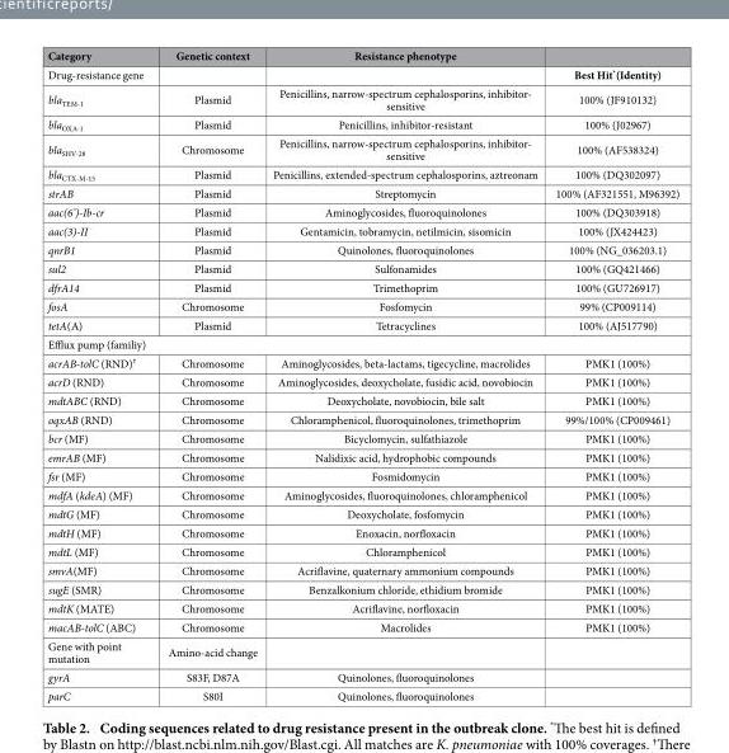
<table><thead><tr><td>Category</td><td>Genetic context</td><td>Resistance phenotype</td><td></td></tr></thead><tbody><tr><td>Drug-resistance gene</td><td></td><td></td><td>Best Hit*(Identity)</td></tr><tr><td>bla<sub>TEM-1</sub></td><td>Plasmid</td><td>Penicillins, narrow-spectrum cephalosporins, inhibitor- sensitive</td><td>100% (JF910132)</td></tr><tr><td>bla<sub>OXA-1</sub></td><td>Plasmid</td><td>Penicillins, inhibitor-resistant</td><td>100% (J02967)</td></tr><tr><td>bla<sub>SHV-28</sub></td><td>Chromosome</td><td>Penicillins, narrow-spectrum cephalosporins, inhibitor- sensitive</td><td>100% (AF538324)</td></tr><tr><td>bla<sub>CTX-M-15</sub></td><td>Plasmid</td><td>Penicillins, extended-spectrum cephalosporins, aztreonam</td><td>100% (DQ302097)</td></tr><tr><td>strAB</td><td>Plasmid</td><td>Streptomycin</td><td>100% (AF321551, M96392)</td></tr><tr><td>aac(6’)-Ib-cr</td><td>Plasmid</td><td>Aminoglycosides, fluoroquinolones</td><td>100% (DQ303918)</td></tr><tr><td>aac(3)-II</td><td>Plasmid</td><td>Gentamicin, tobramycin, netilmicin, sisomicin</td><td>100% (JX424423)</td></tr><tr><td>qnrB1</td><td>Plasmid</td><td>Quinolones, fluoroquinolones</td><td>100% (NG_036203.1)</td></tr><tr><td>sul2</td><td>Plasmid</td><td>Sulfonamides</td><td>100% (GQ421466)</td></tr><tr><td>dfrA14</td><td>Plasmid</td><td>Trimethoprim</td><td>100% (GU726917)</td></tr><tr><td>fosA</td><td>Chromosome</td><td>Fosfomycin</td><td>99% (CP009114)</td></tr><tr><td>tetA(A)</td><td>Plasmid</td><td>Tetracyclines</td><td>100% (AJ517790)</td></tr><tr><td colspan="4">Efflux pump (familiy)</td></tr><tr><td>acrAB-tolC (RND)†</td><td>Chromosome</td><td>Aminoglycosides, beta-lactams, tigecycline, macrolides</td><td>PMK1 (100%)</td></tr><tr><td>acrD (RND)</td><td>Chromosome</td><td>Aminoglycosides, deoxycholate, fusidic acid, novobiocin</td><td>PMK1 (100%)</td></tr><tr><td>mdtABC (RND)</td><td>Chromosome</td><td>Deoxycholate, novobiocin, bile salt</td><td>PMK1 (100%)</td></tr><tr><td>oqxAB (RND)</td><td>Chromosome</td><td>Chloramphenicol, fluoroquinolones, trimethoprim</td><td>99%/100% (CP009461)</td></tr><tr><td>bcr (MF)</td><td>Chromosome</td><td>Bicyclomycin, sulfathiazole</td><td>PMK1 (100%)</td></tr><tr><td>emrAB (MF)</td><td>Chromosome</td><td>Nalidixic acid, hydrophobic compounds</td><td>PMK1 (100%)</td></tr><tr><td>fsr (MF)</td><td>Chromosome</td><td>Fosmidomycin</td><td>PMK1 (100%)</td></tr><tr><td>mdfA (kdeA) (MF)</td><td>Chromosome</td><td>Aminoglycosides, fluoroquinolones, chloramphenicol</td><td>PMK1 (100%)</td></tr><tr><td>mdtG (MF)</td><td>Chromosome</td><td>Deoxycholate, fosfomycin</td><td>PMK1 (100%)</td></tr><tr><td>mdtH (MF)</td><td>Chromosome</td><td>Enoxacin, norfloxacin</td><td>PMK1 (100%)</td></tr><tr><td>mdtL (MF)</td><td>Chromosome</td><td>Chloramphenicol</td><td>PMK1 (100%)</td></tr><tr><td>smvA(MF)</td><td>Chromosome</td><td>Acriflavine, quaternary ammonium compounds</td><td>PMK1 (100%)</td></tr><tr><td>sugE (SMR)</td><td>Chromosome</td><td>Benzalkonium chloride, ethidium bromide</td><td>PMK1 (100%)</td></tr><tr><td>mdtK (MATE)</td><td>Chromosome</td><td>Acriflavine, norfloxacin</td><td>PMK1 (100%)</td></tr><tr><td>macAB-tolC (ABC)</td><td>Chromosome</td><td>Macrolides</td><td>PMK1 (100%)</td></tr><tr><td>Gene with point mutation</td><td>Amino-acid change</td><td></td><td></td></tr><tr><td>gyrA</td><td>S83F, D87A</td><td>Quinolones, fluoroquinolones</td><td></td></tr><tr><td>parC</td><td>S80I</td><td>Quinolones, fluoroquinolones</td><td></td></tr></tbody></table>